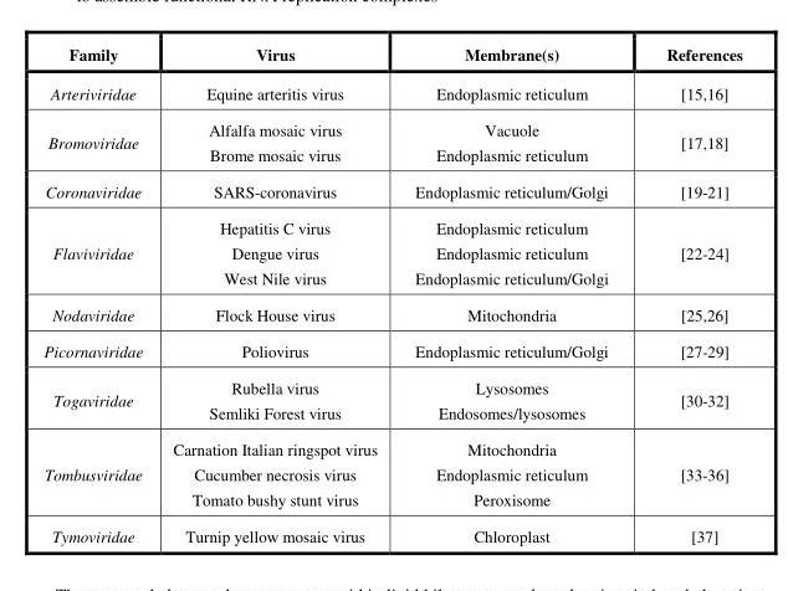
<table><thead><tr><td>Family</td><td>Virus</td><td>Membrane(s)</td><td>References</td></tr></thead><tbody><tr><td>Arteriviridae</td><td>Equine arteritis virus</td><td>Endoplasmic reticulum</td><td>[15,16]</td></tr><tr><td>Bromoviridae</td><td>Alfalfa mosaic virus Brome mosaic virus</td><td>Vacuole Endoplasmic reticulum</td><td>[17,18]</td></tr><tr><td>Coronaviridae</td><td>SARS-coronavirus</td><td>Endoplasmic reticulum/Golgi</td><td>[19-21]</td></tr><tr><td>Flaviviridae</td><td>Hepatitis C virus Dengue virus West Nile virus</td><td>Endoplasmic reticulum Endoplasmic reticulum Endoplasmic reticulum/Golgi</td><td>[22-24]</td></tr><tr><td>Nodaviridae</td><td>Flock House virus</td><td>Mitochondria</td><td>[25,26]</td></tr><tr><td>Picornaviridae</td><td>Poliovirus</td><td>Endoplasmic reticulum/Golgi</td><td>[27-29]</td></tr><tr><td>Togaviridae</td><td>Rubella virus Semliki Forest virus</td><td>Lysosomes Endosomes/lysosomes</td><td>[30-32]</td></tr><tr><td>Tombusviridae</td><td>Carnation Italian ringspot virus Cucumber necrosis virus Tomato bushy stunt virus</td><td>Mitochondria Endoplasmic reticulum Peroxisome</td><td>[33-36]</td></tr><tr><td>Tymoviridae</td><td>Turnip yellow mosaic virus</td><td>Chloroplast</td><td>[37]</td></tr></tbody></table>